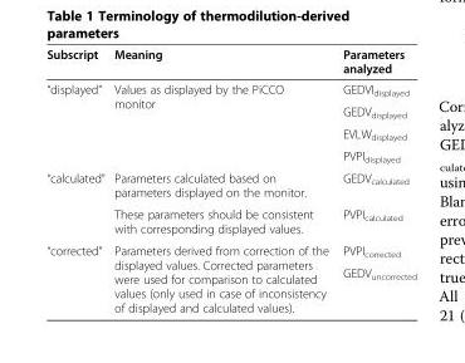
<table><thead><tr><td>Subscript</td><td>Meaning</td><td>Parameters analyzed</td></tr></thead><tbody><tr><td rowspan="4">“displayed”</td><td rowspan="4">Values as displayed by the PiCCO monitor</td><td>GEDVI<sub>displayed</sub></td></tr><tr><td>GEDV<sub>displayed</sub></td></tr><tr><td>EVLW<sub>displayed</sub></td></tr><tr><td>PVPI<sub>displayed</sub></td></tr><tr><td rowspan="2">“calculated”</td><td>Parameters calculated based on parameters displayed on the monitor.</td><td>GEDV<sub>calculated</sub></td></tr><tr><td>These parameters should be consistent with corresponding displayed values.</td><td>PVPI<sub>calculated</sub></td></tr><tr><td rowspan="2">“corrected”</td><td rowspan="2">Parameters derived from correction of the displayed values. Corrected parameters were used for comparison to calculated values (only used in case of inconsistency of displayed and calculated values).</td><td>PVPI<sub>corrected</sub></td></tr><tr><td>GEDV<sub>uncorrected</sub></td></tr></tbody></table>